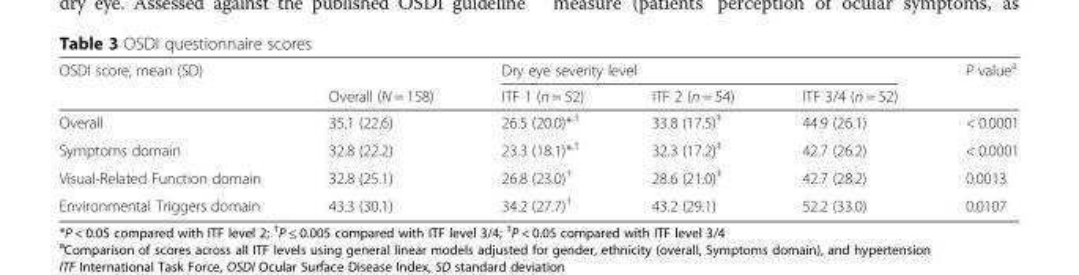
<table><thead><tr><td rowspan="2">OSDI score, mean (SD)</td><td rowspan="2">Overall (N = 158)</td><td colspan="3">Dry eye severity level</td><td rowspan="2">P value<sup>a</sup></td></tr><tr><td>ITF 1 (n = 52)</td><td>ITF 2 (n = 54)</td><td>ITF 3/4 (n = 52)</td></tr></thead><tbody><tr><td>Overall</td><td>35.1 (22.6)</td><td>26.5 (20.0)*<sup>,†</sup></td><td>33.8 (17.5)<sup>‡</sup></td><td>44.9 (26.1)</td><td>&lt; 0.0001</td></tr><tr><td>Symptoms domain</td><td>32.8 (22.2)</td><td>23.3 (18.1)*<sup>,†</sup></td><td>32.3 (17.2)<sup>‡</sup></td><td>42.7 (26.2)</td><td>&lt; 0.0001</td></tr><tr><td>Visual-Related Function domain</td><td>32.8 (25.1)</td><td>26.8 (23.0)<sup>†</sup></td><td>28.6 (21.0)<sup>‡</sup></td><td>42.7 (28.2)</td><td>0.0013</td></tr><tr><td>Environmental Triggers domain</td><td>43.3 (30.1)</td><td>34.2 (27.7)<sup>†</sup></td><td>43.2 (29.1)</td><td>52.2 (33.0)</td><td>0.0107</td></tr></tbody></table>